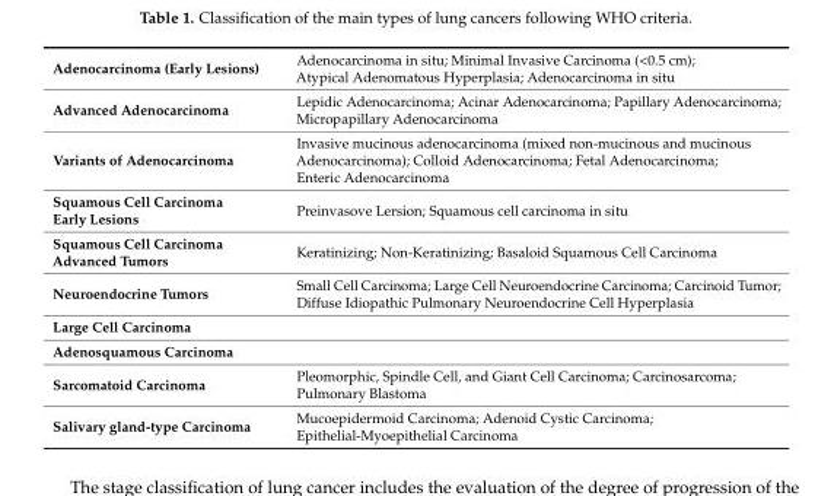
<table><tbody><tr><td>Adenocarcinoma (Early Lesions)</td><td>Adenocarcinoma in situ; Minimal Invasive Carcinoma (&lt;0.5 cm); Atypical Adenomatous Hyperplasia; Adenocarcinoma in situ</td></tr><tr><td>Advanced Adenocarcinoma</td><td>Lepidic Adenocarcinoma; Acinar Adenocarcinoma; Papillary Adenocarcinoma; Micropapillary Adenocarcinoma</td></tr><tr><td>Variants of Adenocarcinoma</td><td>Invasive mucinous adenocarcinoma (mixed non-mucinous and mucinous Adenocarcinoma); Colloid Adenocarcinoma; Fetal Adenocarcinoma; Enteric Adenocarcinoma</td></tr><tr><td>Squamous Cell Carcinoma Early Lesions</td><td>Preinvasove Lersion; Squamous cell carcinoma in situ</td></tr><tr><td>Squamous Cell Carcinoma Advanced Tumors</td><td>Keratinizing; Non-Keratinizing; Basaloid Squamous Cell Carcinoma</td></tr><tr><td>Neuroendocrine Tumors</td><td>Small Cell Carcinoma; Large Cell Neuroendocrine Carcinoma; Carcinoid Tumor; Diffuse Idiopathic Pulmonary Neuroendocrine Cell Hyperplasia</td></tr><tr><td colspan="2">Large Cell Carcinoma</td></tr><tr><td colspan="2">Adenosquamous Carcinoma</td></tr><tr><td>Sarcomatoid Carcinoma</td><td>Pleomorphic, Spindle Cell, and Giant Cell Carcinoma; Carcinosarcoma; Pulmonary Blastoma</td></tr><tr><td>Salivary gland-type Carcinoma</td><td>Mucoepidermoid Carcinoma; Adenoid Cystic Carcinoma; Epithelial-Myoepithelial Carcinoma</td></tr></tbody></table>